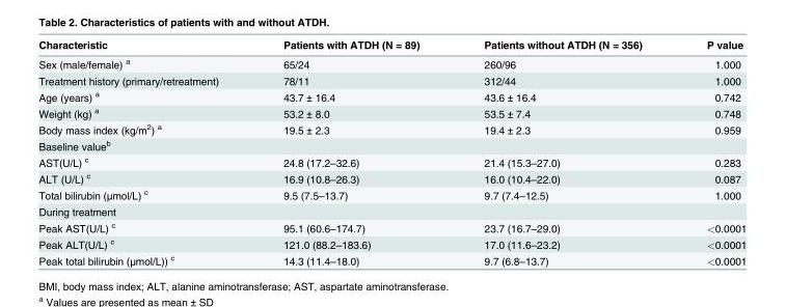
<table><thead><tr><td>Characteristic</td><td>Patients with ATDH (N = 89)</td><td>Patients without ATDH (N = 356)</td><td>P value</td></tr></thead><tbody><tr><td>Sex (male/female) <sup>a</sup></td><td>65/24</td><td>260/96</td><td>1.000</td></tr><tr><td>Treatment history (primary/retreatment)</td><td>78/11</td><td>312/44</td><td>1.000</td></tr><tr><td>Age (years) <sup>a</sup></td><td>43.7 ± 16.4</td><td>43.6 ± 16.4</td><td>0.742</td></tr><tr><td>Weight (kg) <sup>a</sup></td><td>53.2 ± 8.0</td><td>53.5 ± 7.4</td><td>0.748</td></tr><tr><td>Body mass index (kg/m<sup>2</sup>) <sup>a</sup></td><td>19.5 ± 2.3</td><td>19.4 ± 2.3</td><td>0.959</td></tr><tr><td colspan="4">Baseline value<sup>b</sup></td></tr><tr><td>AST(U/L) <sup>c</sup></td><td>24.8 (17.2–32.6)</td><td>21.4 (15.3–27.0)</td><td>0.283</td></tr><tr><td>ALT (U/L) <sup>c</sup></td><td>16.9 (10.8–26.3)</td><td>16.0 (10.4–22.0)</td><td>0.087</td></tr><tr><td>Total bilirubin (μmol/L) <sup>c</sup></td><td>9.5 (7.5–13.7)</td><td>9.7 (7.4–12.5)</td><td>1.000</td></tr><tr><td colspan="4">During treatment</td></tr><tr><td>Peak AST(U/L) <sup>c</sup></td><td>95.1 (60.6–174.7)</td><td>23.7 (16.7–29.0)</td><td>&lt;0.0001</td></tr><tr><td>Peak ALT(U/L) <sup>c</sup></td><td>121.0 (88.2–183.6)</td><td>17.0 (11.6–23.2)</td><td>&lt;0.0001</td></tr><tr><td>Peak total bilirubin (μmol/L)) <sup>c</sup></td><td>14.3 (11.4–18.0)</td><td>9.7 (6.8–13.7)</td><td>&lt;0.0001</td></tr></tbody></table>